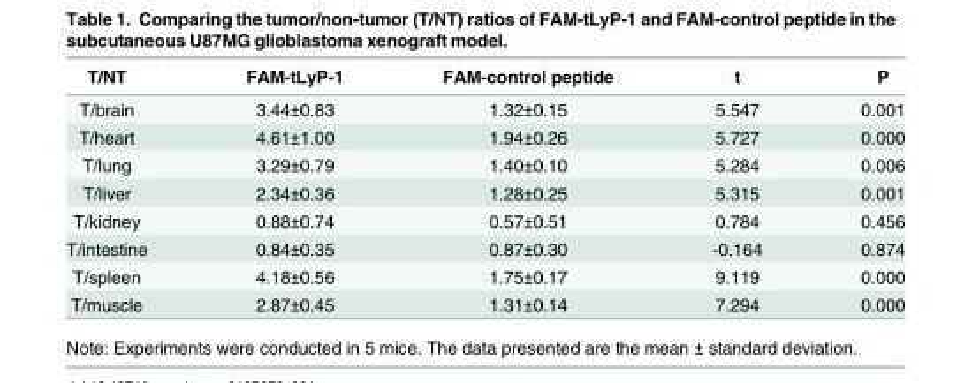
<table><thead><tr><td>T/NT</td><td>FAM-tLyP-1</td><td>FAM-control peptide</td><td>t</td><td>P</td></tr></thead><tbody><tr><td>T/brain</td><td>3.44±0.83</td><td>1.32±0.15</td><td>5.547</td><td>0.001</td></tr><tr><td>T/heart</td><td>4.61±1.00</td><td>1.94±0.26</td><td>5.727</td><td>0.000</td></tr><tr><td>T/lung</td><td>3.29±0.79</td><td>1.40±0.10</td><td>5.284</td><td>0.006</td></tr><tr><td>T/liver</td><td>2.34±0.36</td><td>1.28±0.25</td><td>5.315</td><td>0.001</td></tr><tr><td>T/kidney</td><td>0.88±0.74</td><td>0.57±0.51</td><td>0.784</td><td>0.456</td></tr><tr><td>T/intestine</td><td>0.84±0.35</td><td>0.87±0.30</td><td>-0.164</td><td>0.874</td></tr><tr><td>T/spleen</td><td>4.18±0.56</td><td>1.75±0.17</td><td>9.119</td><td>0.000</td></tr><tr><td>T/muscle</td><td>2.87±0.45</td><td>1.31±0.14</td><td>7.294</td><td>0.000</td></tr></tbody></table>